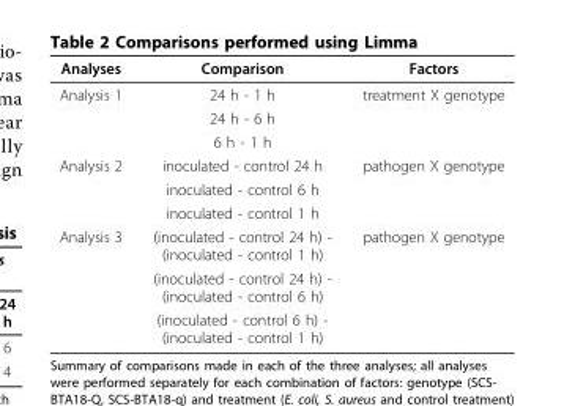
<table><thead><tr><td>Analyses</td><td>Comparison</td><td>Factors</td></tr></thead><tbody><tr><td rowspan="3">Analysis 1</td><td>24 h - 1 h</td><td>treatment X genotype</td></tr><tr><td>24 h - 6 h</td><td></td></tr><tr><td>6 h - 1 h</td><td></td></tr><tr><td rowspan="3">Analysis 2</td><td>inoculated - control 24 h</td><td>pathogen X genotype</td></tr><tr><td>inoculated - control 6 h</td><td></td></tr><tr><td>inoculated - control 1 h</td><td></td></tr><tr><td rowspan="3">Analysis 3</td><td>(inoculated - control 24 h) - (inoculated - control 1 h)</td><td>pathogen X genotype</td></tr><tr><td>(inoculated - control 24 h) - (inoculated - control 6 h)</td><td></td></tr><tr><td>(inoculated - control 6 h) - (inoculated - control 1 h)</td><td></td></tr></tbody></table>